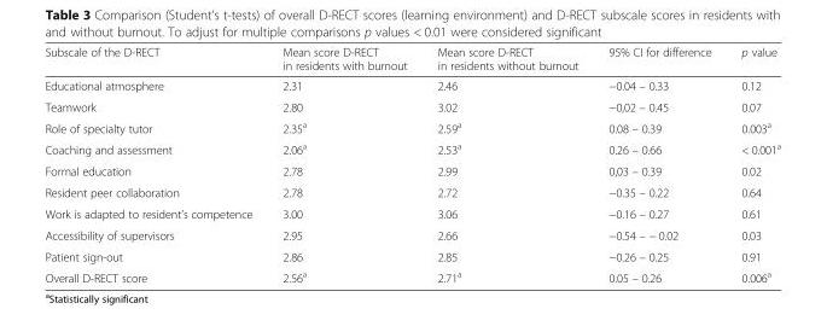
<table><thead><tr><td>Subscale of the D-RECT</td><td>Mean score D-RECT in residents with burnout</td><td>Mean score D-RECT in residents without burnout</td><td>95% CI for difference</td><td>p value</td></tr></thead><tbody><tr><td>Educational atmosphere</td><td>2.31</td><td>2.46</td><td>−0.04 – 0.33</td><td>0.12</td></tr><tr><td>Teamwork</td><td>2.80</td><td>3.02</td><td>−0,02 – 0.45</td><td>0.07</td></tr><tr><td>Role of specialty tutor</td><td>2.35<sup>a</sup></td><td>2.59<sup>a</sup></td><td>0.08 – 0.39</td><td>0.003<sup>a</sup></td></tr><tr><td>Coaching and assessment</td><td>2.06<sup>a</sup></td><td>2.53<sup>a</sup></td><td>0.26 – 0.66</td><td>&lt; 0.001<sup>a</sup></td></tr><tr><td>Formal education</td><td>2.78</td><td>2.99</td><td>0,03 – 0.39</td><td>0.02</td></tr><tr><td>Resident peer collaboration</td><td>2.78</td><td>2.72</td><td>−0.35 – 0.22</td><td>0.64</td></tr><tr><td>Work is adapted to resident’s competence</td><td>3.00</td><td>3.06</td><td>−0.16 – 0.27</td><td>0.61</td></tr><tr><td>Accessibility of supervisors</td><td>2.95</td><td>2.66</td><td>−0.54 – − 0.02</td><td>0.03</td></tr><tr><td>Patient sign-out</td><td>2.86</td><td>2.85</td><td>−0.26 – 0.25</td><td>0.91</td></tr><tr><td>Overall D-RECT score</td><td>2.56<sup>a</sup></td><td>2.71<sup>a</sup></td><td>0.05 – 0.26</td><td>0.006<sup>a</sup></td></tr></tbody></table>